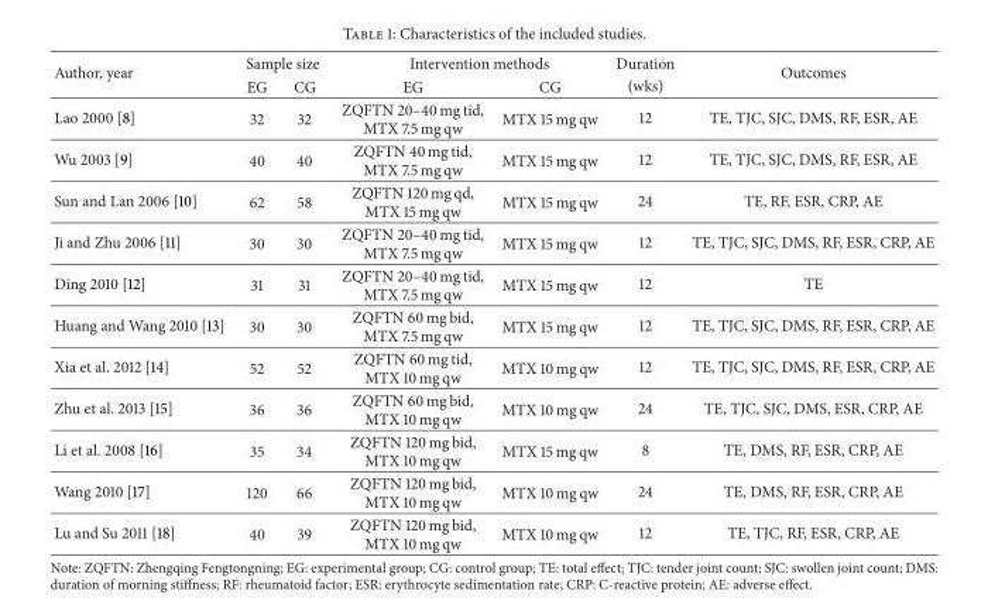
<table><thead><tr><td rowspan="2">Author, year</td><td colspan="2">Sample size</td><td colspan="2">Intervention methods</td><td rowspan="2">Duration (wks)</td><td rowspan="2">Outcomes</td></tr><tr><td>EG</td><td>CG</td><td>EG</td><td>CG</td></tr></thead><tbody><tr><td>Lao 2000 [8]</td><td>32</td><td>32</td><td>ZQFTN 20–40 mg tid, MTX 7.5 mg qw</td><td>MTX 15 mg qw</td><td>12</td><td>TE, TJC, SJC, DMS, RF, ESR, AE</td></tr><tr><td>Wu 2003 [9]</td><td>40</td><td>40</td><td>ZQFTN 40 mg tid, MTX 7.5 mg qw</td><td>MTX 15 mg qw</td><td>12</td><td>TE, TJC, SJC, DMS, RF, ESR, AE</td></tr><tr><td>Sun and Lan 2006 [10]</td><td>62</td><td>58</td><td>ZQFTN 120 mg qd, MTX 15 mg qw</td><td>MTX 15 mg qw</td><td>24</td><td>TE, RF, ESR, CRP, AE</td></tr><tr><td>Ji and Zhu 2006 [11]</td><td>30</td><td>30</td><td>ZQFTN 20–40 mg tid, MTX 7.5 mg qw</td><td>MTX 15 mg qw</td><td>12</td><td>TE, TJC, SJC, DMS, RF, ESR, CRP, AE</td></tr><tr><td>Ding 2010 [12]</td><td>31</td><td>31</td><td>ZQFTN 20–40 mg tid, MTX 7.5 mg qw</td><td>MTX 15 mg qw</td><td>12</td><td>TE</td></tr><tr><td>Huang and Wang 2010 [13]</td><td>30</td><td>30</td><td>ZQFTN 60 mg bid, MTX 7.5 mg qw</td><td>MTX 15 mg qw</td><td>12</td><td>TE, TJC, SJC, DMS, RF, ESR, CRP, AE</td></tr><tr><td>Xia et al. 2012 [14]</td><td>52</td><td>52</td><td>ZQFTN 60 mg tid, MTX 10 mg qw</td><td>MTX 10 mg qw</td><td>12</td><td>TE, TJC, SJC, DMS, RF, ESR, CRP, AE</td></tr><tr><td>Zhu et al. 2013 [15]</td><td>36</td><td>36</td><td>ZQFTN 60 mg bid, MTX 10 mg qw</td><td>MTX 10 mg qw</td><td>24</td><td>TE, TJC, SJC, DMS, ESR, CRP, AE</td></tr><tr><td>Li et al. 2008 [16]</td><td>35</td><td>34</td><td>ZQFTN 120 mg bid, MTX 10 mg qw</td><td>MTX 15 mg qw</td><td>8</td><td>TE, DMS, RF, ESR, CRP, AE</td></tr><tr><td>Wang 2010 [17]</td><td>120</td><td>66</td><td>ZQFTN 120 mg bid, MTX 10 mg qw</td><td>MTX 10 mg qw</td><td>24</td><td>TE, DMS, RF, ESR, CRP, AE</td></tr><tr><td>Lu and Su 2011 [18]</td><td>40</td><td>39</td><td>ZQFTN 120 mg bid, MTX 10 mg qw</td><td>MTX 10 mg qw</td><td>12</td><td>TE, TJC, RF, ESR, CRP, AE</td></tr></tbody></table>